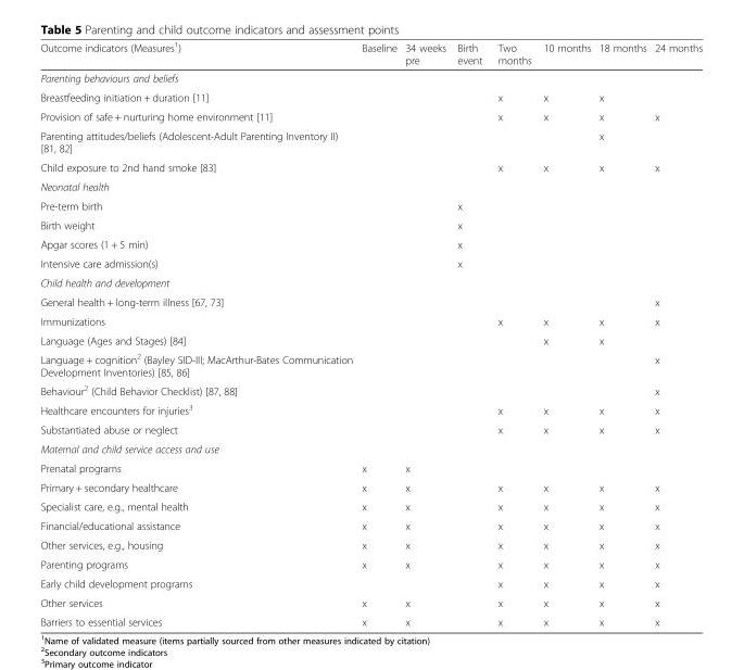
<table><thead><tr><td>Outcome indicators (Measures<sup>1</sup>)</td><td>Baseline</td><td>34 weeks pre</td><td>Birth event</td><td>Two months</td><td>10 months</td><td>18 months</td><td>24 months</td></tr></thead><tbody><tr><td colspan="8">Parenting behaviours and beliefs</td></tr><tr><td>Breastfeeding initiation + duration [11]</td><td></td><td></td><td></td><td>x</td><td>x</td><td>x</td><td></td></tr><tr><td>Provision of safe + nurturing home environment [11]</td><td></td><td></td><td></td><td>x</td><td>x</td><td>x</td><td>x</td></tr><tr><td>Parenting attitudes/beliefs (Adolescent-Adult Parenting Inventory II) [81, 82]</td><td></td><td></td><td></td><td></td><td></td><td>x</td><td></td></tr><tr><td>Child exposure to 2nd hand smoke [83]</td><td></td><td></td><td></td><td>x</td><td>x</td><td>x</td><td>x</td></tr><tr><td colspan="8">Neonatal health</td></tr><tr><td>Pre-term birth</td><td></td><td></td><td>x</td><td></td><td></td><td></td><td></td></tr><tr><td>Birth weight</td><td></td><td></td><td>x</td><td></td><td></td><td></td><td></td></tr><tr><td>Apgar scores (1 + 5 min)</td><td></td><td></td><td>x</td><td></td><td></td><td></td><td></td></tr><tr><td>Intensive care admission(s)</td><td></td><td></td><td>x</td><td></td><td></td><td></td><td></td></tr><tr><td colspan="8">Child health and development</td></tr><tr><td>General health + long-term illness [67, 73]</td><td></td><td></td><td></td><td></td><td></td><td></td><td>x</td></tr><tr><td>Immunizations</td><td></td><td></td><td></td><td>x</td><td>x</td><td>x</td><td>x</td></tr><tr><td>Language (Ages and Stages) [84]</td><td></td><td></td><td></td><td></td><td>x</td><td>x</td><td></td></tr><tr><td>Language + cognition<sup>2</sup> (Bayley SID-III; MacArthur-Bates Communication Development Inventories) [85, 86]</td><td></td><td></td><td></td><td></td><td></td><td></td><td>x</td></tr><tr><td>Behaviour<sup>2</sup> (Child Behavior Checklist) [87, 88]</td><td></td><td></td><td></td><td></td><td></td><td></td><td>x</td></tr><tr><td>Healthcare encounters for injuries<sup>3</sup></td><td></td><td></td><td></td><td>x</td><td>x</td><td>x</td><td>x</td></tr><tr><td>Substantiated abuse or neglect</td><td></td><td></td><td></td><td>x</td><td>x</td><td>x</td><td>x</td></tr><tr><td colspan="8">Maternal and child service access and use</td></tr><tr><td>Prenatal programs</td><td>x</td><td>x</td><td></td><td></td><td></td><td></td><td></td></tr><tr><td>Primary + secondary healthcare</td><td>x</td><td>x</td><td></td><td>x</td><td>x</td><td>x</td><td>x</td></tr><tr><td>Specialist care, e.g., mental health</td><td>x</td><td>x</td><td></td><td>x</td><td>x</td><td>x</td><td>x</td></tr><tr><td>Financial/educational assistance</td><td>x</td><td>x</td><td></td><td>x</td><td>x</td><td>x</td><td>x</td></tr><tr><td>Other services, e.g., housing</td><td>x</td><td>x</td><td></td><td>x</td><td>x</td><td>x</td><td>x</td></tr><tr><td>Parenting programs</td><td>x</td><td>x</td><td></td><td>x</td><td>x</td><td>x</td><td>x</td></tr><tr><td>Early child development programs</td><td></td><td></td><td></td><td>x</td><td>x</td><td>x</td><td>x</td></tr><tr><td>Other services</td><td>x</td><td>x</td><td></td><td>x</td><td>x</td><td>x</td><td>x</td></tr><tr><td>Barriers to essential services</td><td>x</td><td>x</td><td></td><td>x</td><td>x</td><td>x</td><td>x</td></tr></tbody></table>